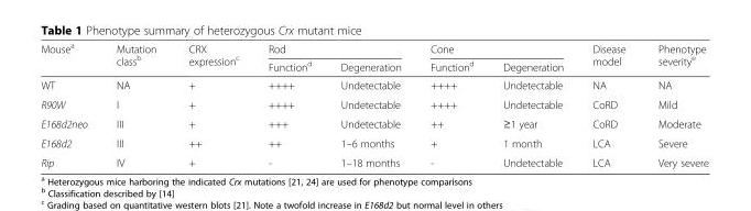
<table><thead><tr><td rowspan="2">Mouse<sup>a</sup></td><td rowspan="2">Mutation class<sup>b</sup></td><td rowspan="2">CRX expression<sup>c</sup></td><td colspan="2">Rod</td><td colspan="2">Cone</td><td rowspan="2">Disease model</td><td rowspan="2">Phenotype severity<sup>e</sup></td></tr><tr><td>Function<sup>d</sup></td><td>Degeneration</td><td>Function<sup>d</sup></td><td>Degeneration</td></tr></thead><tbody><tr><td>WT</td><td>NA</td><td>+</td><td>++++</td><td>Undetectable</td><td>++++</td><td>Undetectable</td><td>NA</td><td>NA</td></tr><tr><td>R90W</td><td>I</td><td>+</td><td>++++</td><td>Undetectable</td><td>++++</td><td>Undetectable</td><td>CoRD</td><td>Mild</td></tr><tr><td>E168d2neo</td><td>III</td><td>+</td><td>+++</td><td>Undetectable</td><td>++</td><td>≥1 year</td><td>CoRD</td><td>Moderate</td></tr><tr><td>E168d2</td><td>III</td><td>++</td><td>++</td><td>1–6 months</td><td>+</td><td>1 month</td><td>LCA</td><td>Severe</td></tr><tr><td>Rip</td><td>IV</td><td>+</td><td>-</td><td>1–18 months</td><td>-</td><td>Undetectable</td><td>LCA</td><td>Very severe</td></tr></tbody></table>